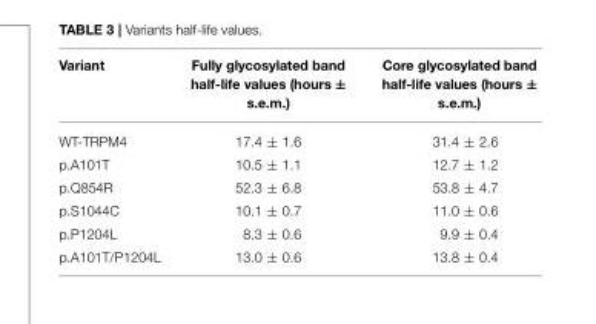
<table><thead><tr><td>Variant</td><td>Fully glycosylated band half-life values (hours ± s.e.m.)</td><td>Core glycosylated band half-life values (hours ± s.e.m.)</td></tr></thead><tbody><tr><td>WT-TRPM4</td><td>17.4 ± 1.6</td><td>31.4 ± 2.6</td></tr><tr><td>p.A101T</td><td>10.5 ± 1.1</td><td>12.7 ± 1.2</td></tr><tr><td>p.Q854R</td><td>52.3 ± 6.8</td><td>53.8 ± 4.7</td></tr><tr><td>p.S1044C</td><td>10.1 ± 0.7</td><td>11.0 ± 0.6</td></tr><tr><td>p.P1204L</td><td>8.3 ± 0.6</td><td>9.9 ± 0.4</td></tr><tr><td>p.A101T/P1204L</td><td>13.0 ± 0.6</td><td>13.8 ± 0.4</td></tr></tbody></table>